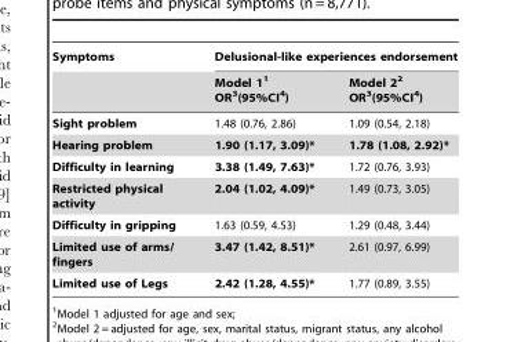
<table><thead><tr><td rowspan="2">Symptoms</td><td colspan="2">Delusional-like experiences endorsement</td></tr><tr><td>Model 1<sup>1</sup> OR<sup>3</sup>(95%CI<sup>4</sup>)</td><td>Model 2<sup>2</sup> OR<sup>3</sup>(95%CI<sup>4</sup>)</td></tr></thead><tbody><tr><td>Sight problem</td><td>1.48 (0.76, 2.86)</td><td>1.09 (0.54, 2.18)</td></tr><tr><td>Hearing problem</td><td>1.90 (1.17, 3.09)*</td><td>1.78 (1.08, 2.92)*</td></tr><tr><td>Difficulty in learning</td><td>3.38 (1.49, 7.63)*</td><td>1.72 (0.76, 3.93)</td></tr><tr><td>Restricted physical activity</td><td>2.04 (1.02, 4.09)*</td><td>1.49 (0.73, 3.05)</td></tr><tr><td>Difficulty in gripping</td><td>1.63 (0.59, 4.53)</td><td>1.29 (0.48, 3.44)</td></tr><tr><td>Limited use of arms/ fingers</td><td>3.47 (1.42, 8.51)*</td><td>2.61 (0.97, 6.99)</td></tr><tr><td>Limited use of Legs</td><td>2.42 (1.28, 4.55)*</td><td>1.77 (0.89, 3.55)</td></tr></tbody></table>